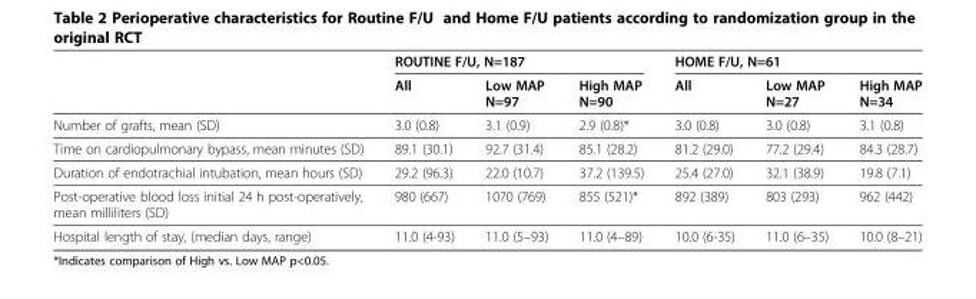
<table><thead><tr><td rowspan="2"></td><td colspan="3">ROUTINE F/U, N=187</td><td colspan="3">HOME F/U, N=61</td></tr><tr><td>All</td><td>Low MAP N=97</td><td>High MAP N=90</td><td>All</td><td>Low MAP N=27</td><td>High MAP N=34</td></tr></thead><tbody><tr><td>Number of grafts, mean (SD)</td><td>3.0 (0.8)</td><td>3.1 (0.9)</td><td>2.9 (0.8)*</td><td>3.0 (0.8)</td><td>3.0 (0.8)</td><td>3.1 (0.8)</td></tr><tr><td>Time on cardiopulmonary bypass, mean minutes (SD)</td><td>89.1 (30.1)</td><td>92.7 (31.4)</td><td>85.1 (28.2)</td><td>81.2 (29.0)</td><td>77.2 (29.4)</td><td>84.3 (28.7)</td></tr><tr><td>Duration of endotrachial intubation, mean hours (SD)</td><td>29.2 (96.3)</td><td>22.0 (10.7)</td><td>37.2 (139.5)</td><td>25.4 (27.0)</td><td>32.1 (38.9)</td><td>19.8 (7.1)</td></tr><tr><td>Post-operative blood loss initial 24 h post-operatively, mean milliliters (SD)</td><td>980 (667)</td><td>1070 (769)</td><td>855 (521)*</td><td>892 (389)</td><td>803 (293)</td><td>962 (442)</td></tr><tr><td>Hospital length of stay, (median days, range)</td><td>11.0 (4-93)</td><td>11.0 (5–93)</td><td>11.0 (4–89)</td><td>10.0 (6-35)</td><td>11.0 (6–35)</td><td>10.0 (8–21)</td></tr></tbody></table>